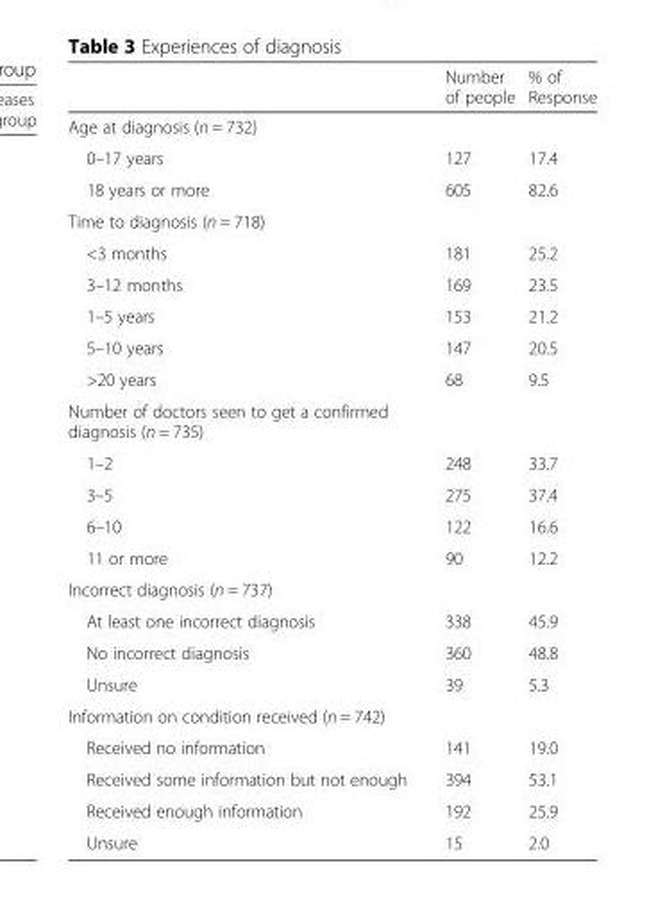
<table><thead><tr><td></td><td>Number of people</td><td>% of Response</td></tr></thead><tbody><tr><td colspan="3">Age at diagnosis (n = 732)</td></tr><tr><td>0–17 years</td><td>127</td><td>17.4</td></tr><tr><td>18 years or more</td><td>605</td><td>82.6</td></tr><tr><td colspan="3">Time to diagnosis (n = 718)</td></tr><tr><td>&lt;3 months</td><td>181</td><td>25.2</td></tr><tr><td>3–12 months</td><td>169</td><td>23.5</td></tr><tr><td>1–5 years</td><td>153</td><td>21.2</td></tr><tr><td>5–10 years</td><td>147</td><td>20.5</td></tr><tr><td>&gt;20 years</td><td>68</td><td>9.5</td></tr><tr><td colspan="3">Number of doctors seen to get a confirmed diagnosis (n = 735)</td></tr><tr><td>1–2</td><td>248</td><td>33.7</td></tr><tr><td>3–5</td><td>275</td><td>37.4</td></tr><tr><td>6–10</td><td>122</td><td>16.6</td></tr><tr><td>11 or more</td><td>90</td><td>12.2</td></tr><tr><td colspan="3">Incorrect diagnosis (n = 737)</td></tr><tr><td>At least one incorrect diagnosis</td><td>338</td><td>45.9</td></tr><tr><td>No incorrect diagnosis</td><td>360</td><td>48.8</td></tr><tr><td>Unsure</td><td>39</td><td>5.3</td></tr><tr><td colspan="3">Information on condition received (n = 742)</td></tr><tr><td>Received no information</td><td>141</td><td>19.0</td></tr><tr><td>Received some information but not enough</td><td>394</td><td>53.1</td></tr><tr><td>Received enough information</td><td>192</td><td>25.9</td></tr><tr><td>Unsure</td><td>15</td><td>2.0</td></tr></tbody></table>